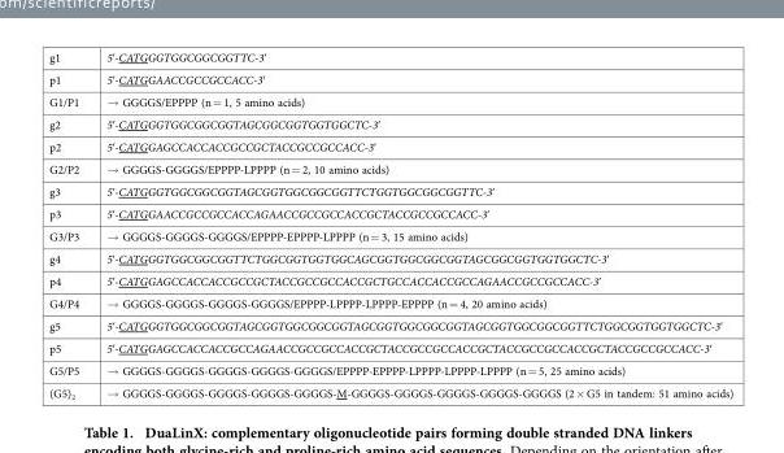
<table><tbody><tr><td>g1</td><td>5’-CATGGGTGGCGGCGGTTC-3’</td></tr><tr><td>p1</td><td>5’-CATGGAACCGCCGCCACC-3’</td></tr><tr><td>G1/P1</td><td>→ GGGGS/EPPPP (n = 1, 5 amino acids)</td></tr><tr><td>g2</td><td>5’-CATGGGTGGCGGCGGTAGCGGCGGTGGTGGCTC-3’</td></tr><tr><td>p2</td><td>5’-CATGGAGCCACCACCGCCGCTACCGCCGCCACC-3’</td></tr><tr><td>G2/P2</td><td>→ GGGGS-GGGGS/EPPPP-LPPPP (n = 2, 10 amino acids)</td></tr><tr><td>g3</td><td>5’-CATGGGTGGCGGCGGTAGCGGTGGCGGCGGTTCTGGTGGCGGCGGTTC-3’</td></tr><tr><td>p3</td><td>5’-CATGGAACCGCCGCCACCAGAACCGCCGCCACCGCTACCGCCGCCACC-3’</td></tr><tr><td>G3/P3</td><td>→ GGGGS-GGGGS-GGGGS/EPPPP-EPPPP-LPPPP (n = 3, 15 amino acids)</td></tr><tr><td>g4</td><td>5’-CATGGGTGGCGGCGGTTCTGGCGGTGGTGGCAGCGGTGGCGGCGGTAGCGGCGGTGGTGGCTC-3’</td></tr><tr><td>p4</td><td>5’-CATGGAGCCACCACCGCCGCTACCGCCGCCACCGCTGCCACCACCGCCAGAACCGCCGCCACC-3’</td></tr><tr><td>G4/P4</td><td>→ GGGGS-GGGGS-GGGGS-GGGGS/EPPPP-LPPPP-LPPPP-EPPPP (n = 4, 20 amino acids)</td></tr><tr><td>g5</td><td>5’-CATGGGTGGCGGCGGTAGCGGTGGCGGCGGTAGCGGTGGCGGCGGTAGCGGTGGCGGCGGTTCTGGCGGTGGTGGCTC-3’</td></tr><tr><td>p5</td><td>5’-CATGGAGCCACCACCGCCAGAACCGCCGCCACCGCTACCGCCGCCACCGCTACCGCCGCCACCGCTACCGCCGCCACC-3’</td></tr><tr><td>G5/P5</td><td>→ GGGGS-GGGGS-GGGGS-GGGGS-GGGGS/EPPPP-EPPPP-LPPPP-LPPPP-LPPPP (n = 5, 25 amino acids)</td></tr><tr><td>(G5)<sub>2</sub></td><td>→ GGGGS-GGGGS-GGGGS-GGGGS-GGGGS-M-GGGGS-GGGGS-GGGGS-GGGGS-GGGGS (2 × G5 in tandem: 51 amino acids)</td></tr></tbody></table>